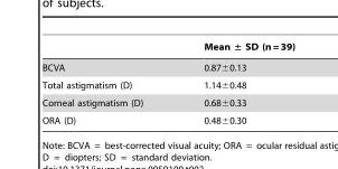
<table><thead><tr><td></td><td>Mean ± SD (n = 39)</td></tr></thead><tbody><tr><td>BCVA</td><td>0.87±0.13</td></tr><tr><td>Total astigmatism (D)</td><td>1.14±0.48</td></tr><tr><td>Corneal astigmatism (D)</td><td>0.68±0.33</td></tr><tr><td>ORA (D)</td><td>0.48±0.30</td></tr></tbody></table>